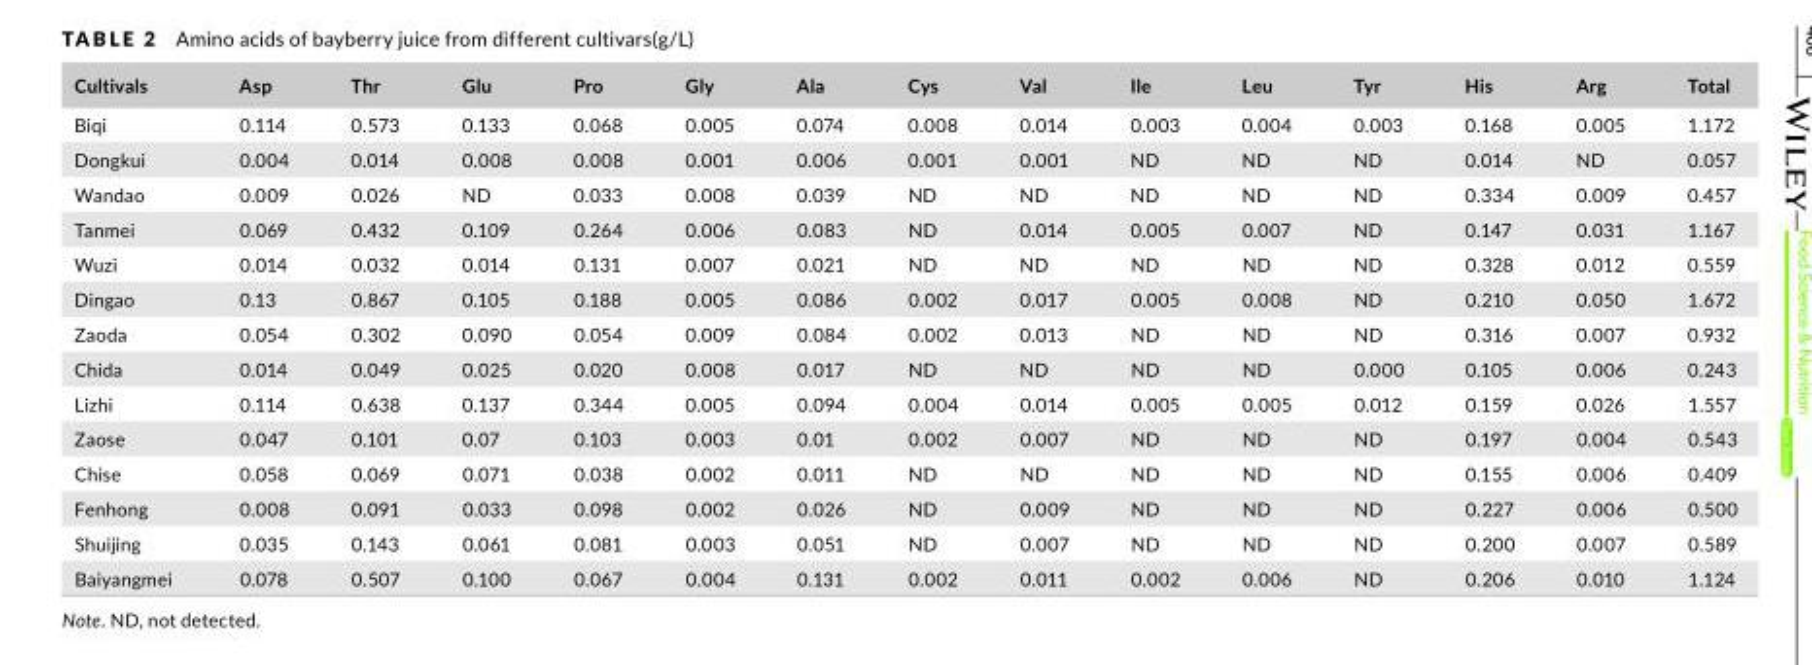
<table><thead><tr><td>Cultivals</td><td>Asp</td><td>Thr</td><td>Glu</td><td>Pro</td><td>Gly</td><td>Ala</td><td>Cys</td><td>Val</td><td>Ile</td><td>Leu</td><td>Tyr</td><td>His</td><td>Arg</td><td>Total</td></tr></thead><tbody><tr><td>Biqi</td><td>0.114</td><td>0.573</td><td>0.133</td><td>0.068</td><td>0.005</td><td>0.074</td><td>0.008</td><td>0.014</td><td>0.003</td><td>0.004</td><td>0.003</td><td>0.168</td><td>0.005</td><td>1.172</td></tr><tr><td>Dongkui</td><td>0.004</td><td>0.014</td><td>0.008</td><td>0.008</td><td>0.001</td><td>0.006</td><td>0.001</td><td>0.001</td><td>ND</td><td>ND</td><td>ND</td><td>0.014</td><td>ND</td><td>0.057</td></tr><tr><td>Wandao</td><td>0.009</td><td>0.026</td><td>ND</td><td>0.033</td><td>0.008</td><td>0.039</td><td>ND</td><td>ND</td><td>ND</td><td>ND</td><td>ND</td><td>0.334</td><td>0.009</td><td>0.457</td></tr><tr><td>Tanmei</td><td>0.069</td><td>0.432</td><td>0.109</td><td>0.264</td><td>0.006</td><td>0.083</td><td>ND</td><td>0.014</td><td>0.005</td><td>0.007</td><td>ND</td><td>0.147</td><td>0.031</td><td>1.167</td></tr><tr><td>Wuzi</td><td>0.014</td><td>0.032</td><td>0.014</td><td>0.131</td><td>0.007</td><td>0.021</td><td>ND</td><td>ND</td><td>ND</td><td>ND</td><td>ND</td><td>0.328</td><td>0.012</td><td>0.559</td></tr><tr><td>Dingao</td><td>0.13</td><td>0.867</td><td>0.105</td><td>0.188</td><td>0.005</td><td>0.086</td><td>0.002</td><td>0.017</td><td>0.005</td><td>0.008</td><td>ND</td><td>0.210</td><td>0.050</td><td>1.672</td></tr><tr><td>Zaoda</td><td>0.054</td><td>0.302</td><td>0.090</td><td>0.054</td><td>0.009</td><td>0.084</td><td>0.002</td><td>0.013</td><td>ND</td><td>ND</td><td>ND</td><td>0.316</td><td>0.007</td><td>0.932</td></tr><tr><td>Chida</td><td>0.014</td><td>0.049</td><td>0.025</td><td>0.020</td><td>0.008</td><td>0.017</td><td>ND</td><td>ND</td><td>ND</td><td>ND</td><td>0.000</td><td>0.105</td><td>0.006</td><td>0.243</td></tr><tr><td>Lizhi</td><td>0.114</td><td>0.638</td><td>0.137</td><td>0.344</td><td>0.005</td><td>0.094</td><td>0.004</td><td>0.014</td><td>0.005</td><td>0.005</td><td>0.012</td><td>0.159</td><td>0.026</td><td>1.557</td></tr><tr><td>Zaose</td><td>0.047</td><td>0.101</td><td>0.07</td><td>0.103</td><td>0.003</td><td>0.01</td><td>0.002</td><td>0.007</td><td>ND</td><td>ND</td><td>ND</td><td>0.197</td><td>0.004</td><td>0.543</td></tr><tr><td>Chise</td><td>0.058</td><td>0.069</td><td>0.071</td><td>0.038</td><td>0.002</td><td>0.011</td><td>ND</td><td>ND</td><td>ND</td><td>ND</td><td>ND</td><td>0.155</td><td>0.006</td><td>0.409</td></tr><tr><td>Fenhong</td><td>0.008</td><td>0.091</td><td>0.033</td><td>0.098</td><td>0.002</td><td>0.026</td><td>ND</td><td>0.009</td><td>ND</td><td>ND</td><td>ND</td><td>0.227</td><td>0.006</td><td>0.500</td></tr><tr><td>Shuijing</td><td>0.035</td><td>0.143</td><td>0.061</td><td>0.081</td><td>0.003</td><td>0.051</td><td>ND</td><td>0.007</td><td>ND</td><td>ND</td><td>ND</td><td>0.200</td><td>0.007</td><td>0.589</td></tr><tr><td>Baiyangmei</td><td>0.078</td><td>0.507</td><td>0.100</td><td>0.067</td><td>0.004</td><td>0.131</td><td>0.002</td><td>0.011</td><td>0.002</td><td>0.006</td><td>ND</td><td>0.206</td><td>0.010</td><td>1.124</td></tr></tbody></table>